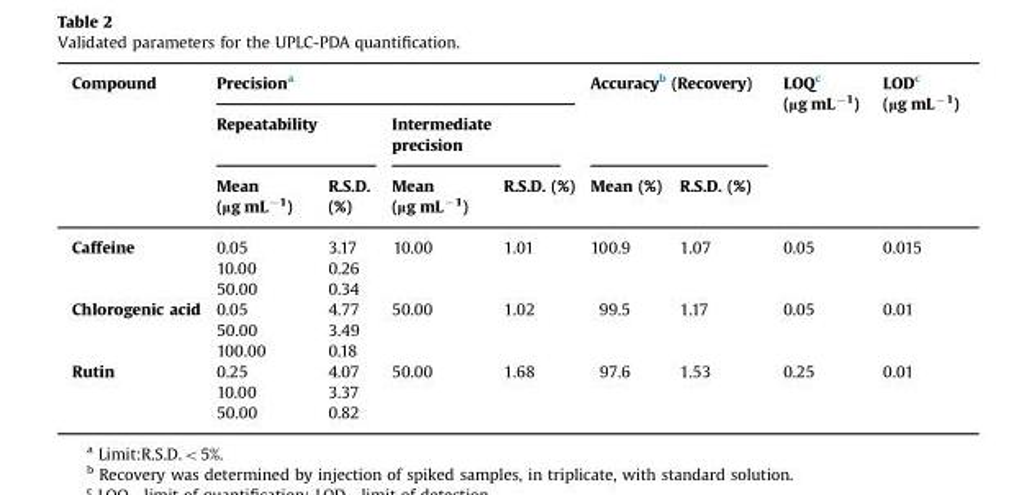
<table><thead><tr><td rowspan="3">Compound</td><td colspan="4">Precision<sup>a</sup></td><td rowspan="2" colspan="2">Accuracy<sup>b</sup> (Recovery)</td><td rowspan="3">LOQ<sup>c</sup> (µg mL<sup>−1</sup>)</td><td rowspan="3">LOD<sup>c</sup> (µg mL<sup>−1</sup>)</td></tr><tr><td colspan="2">Repeatability</td><td colspan="2">Intermediate precision</td></tr><tr><td>Mean (µg mL<sup>−1</sup>)</td><td>R.S.D. (%)</td><td>Mean (µg mL<sup>−1</sup>)</td><td>R.S.D. (%)</td><td>Mean (%)</td><td>R.S.D. (%)</td></tr></thead><tbody><tr><td rowspan="3">Caffeine</td><td>0.05</td><td>3.17</td><td rowspan="3">10.00</td><td rowspan="3">1.01</td><td rowspan="3">100.9</td><td rowspan="3">1.07</td><td rowspan="3">0.05</td><td rowspan="3">0.015</td></tr><tr><td>10.00</td><td>0.26</td></tr><tr><td>50.00</td><td>0.34</td></tr><tr><td rowspan="3">Chlorogenic acid</td><td>0.05</td><td>4.77</td><td rowspan="3">50.00</td><td rowspan="3">1.02</td><td rowspan="3">99.5</td><td rowspan="3">1.17</td><td rowspan="3">0.05</td><td rowspan="3">0.01</td></tr><tr><td>50.00</td><td>3.49</td></tr><tr><td>100.00</td><td>0.18</td></tr><tr><td rowspan="3">Rutin</td><td>0.25</td><td>4.07</td><td rowspan="3">50.00</td><td rowspan="3">1.68</td><td rowspan="3">97.6</td><td rowspan="3">1.53</td><td rowspan="3">0.25</td><td rowspan="3">0.01</td></tr><tr><td>10.00</td><td>3.37</td></tr><tr><td>50.00</td><td>0.82</td></tr></tbody></table>